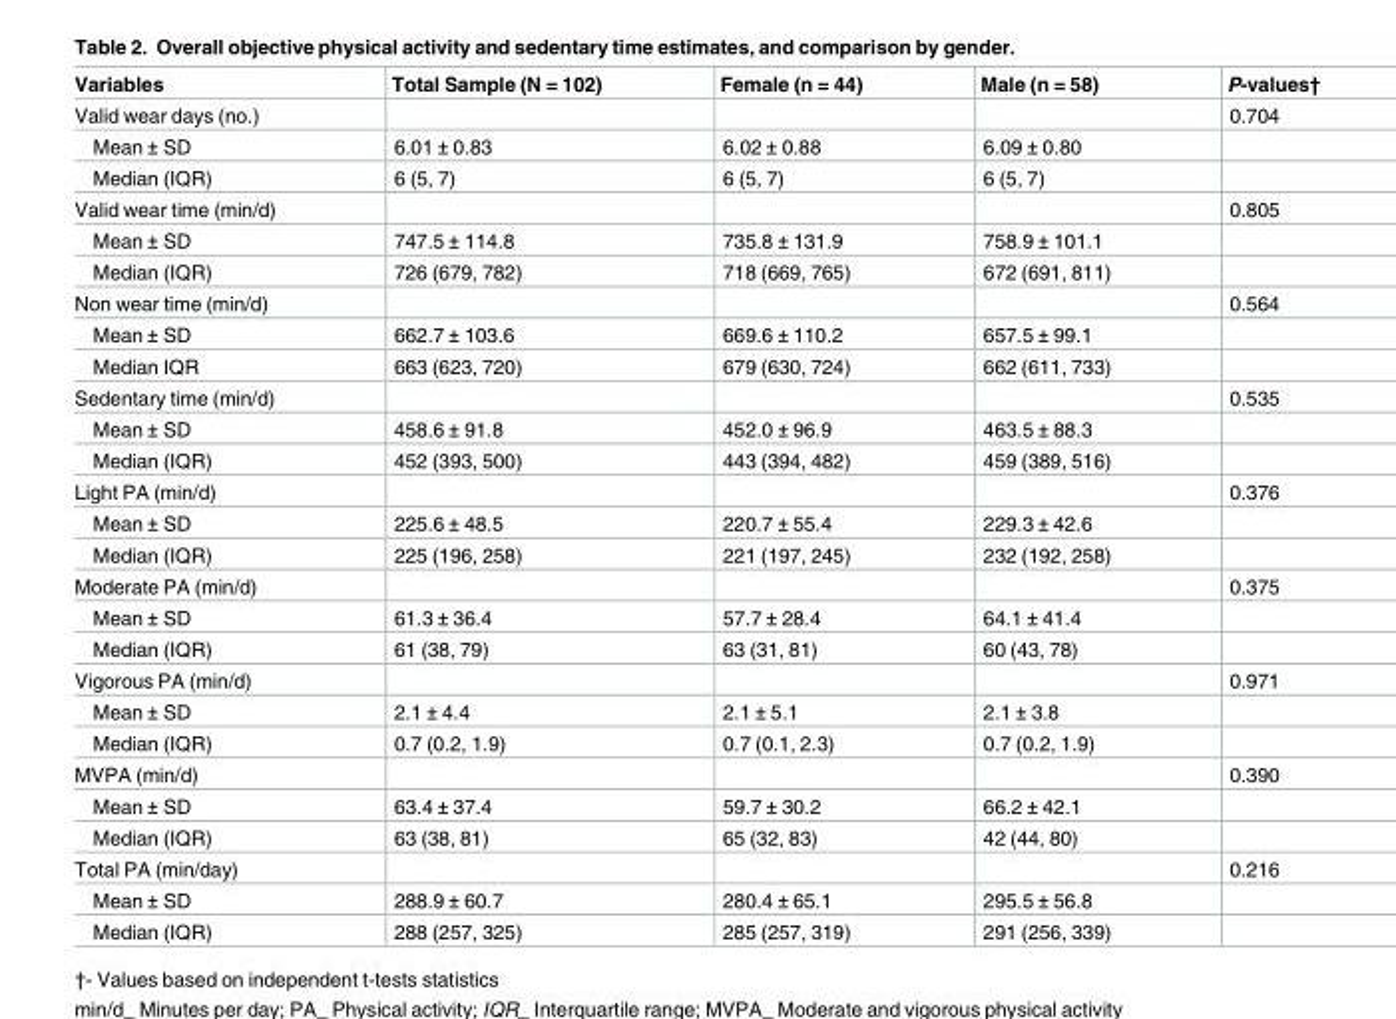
<table><thead><tr><td>Variables</td><td>Total Sample (N = 102)</td><td>Female (n = 44)</td><td>Male (n = 58)</td><td>P-values†</td></tr></thead><tbody><tr><td>Valid wear days (no.)</td><td></td><td></td><td></td><td>0.704</td></tr><tr><td>Mean ± SD</td><td>6.01 ± 0.83</td><td>6.02 ± 0.88</td><td>6.09 ± 0.80</td><td></td></tr><tr><td>Median (IQR)</td><td>6 (5, 7)</td><td>6 (5, 7)</td><td>6 (5, 7)</td><td></td></tr><tr><td>Valid wear time (min/d)</td><td></td><td></td><td></td><td>0.805</td></tr><tr><td>Mean ± SD</td><td>747.5 ± 114.8</td><td>735.8 ± 131.9</td><td>758.9 ± 101.1</td><td></td></tr><tr><td>Median (IQR)</td><td>726 (679, 782)</td><td>718 (669, 765)</td><td>672 (691, 811)</td><td></td></tr><tr><td>Non wear time (min/d)</td><td></td><td></td><td></td><td>0.564</td></tr><tr><td>Mean ± SD</td><td>662.7 ± 103.6</td><td>669.6 ± 110.2</td><td>657.5 ± 99.1</td><td></td></tr><tr><td>Median IQR</td><td>663 (623, 720)</td><td>679 (630, 724)</td><td>662 (611, 733)</td><td></td></tr><tr><td>Sedentary time (min/d)</td><td></td><td></td><td></td><td>0.535</td></tr><tr><td>Mean ± SD</td><td>458.6 ± 91.8</td><td>452.0 ± 96.9</td><td>463.5 ± 88.3</td><td></td></tr><tr><td>Median (IQR)</td><td>452 (393, 500)</td><td>443 (394, 482)</td><td>459 (389, 516)</td><td></td></tr><tr><td>Light PA (min/d)</td><td></td><td></td><td></td><td>0.376</td></tr><tr><td>Mean ± SD</td><td>225.6 ± 48.5</td><td>220.7 ± 55.4</td><td>229.3 ± 42.6</td><td></td></tr><tr><td>Median (IQR)</td><td>225 (196, 258)</td><td>221 (197, 245)</td><td>232 (192, 258)</td><td></td></tr><tr><td>Moderate PA (min/d)</td><td></td><td></td><td></td><td>0.375</td></tr><tr><td>Mean ± SD</td><td>61.3 ± 36.4</td><td>57.7 ± 28.4</td><td>64.1 ± 41.4</td><td></td></tr><tr><td>Median (IQR)</td><td>61 (38, 79)</td><td>63 (31, 81)</td><td>60 (43, 78)</td><td></td></tr><tr><td>Vigorous PA (min/d)</td><td></td><td></td><td></td><td>0.971</td></tr><tr><td>Mean ± SD</td><td>2.1 ± 4.4</td><td>2.1 ± 5.1</td><td>2.1 ± 3.8</td><td></td></tr><tr><td>Median (IQR)</td><td>0.7 (0.2, 1.9)</td><td>0.7 (0.1, 2.3)</td><td>0.7 (0.2, 1.9)</td><td></td></tr><tr><td>MVPA (min/d)</td><td></td><td></td><td></td><td>0.390</td></tr><tr><td>Mean ± SD</td><td>63.4 ± 37.4</td><td>59.7 ± 30.2</td><td>66.2 ± 42.1</td><td></td></tr><tr><td>Median (IQR)</td><td>63 (38, 81)</td><td>65 (32, 83)</td><td>42 (44, 80)</td><td></td></tr><tr><td>Total PA (min/day)</td><td></td><td></td><td></td><td>0.216</td></tr><tr><td>Mean ± SD</td><td>288.9 ± 60.7</td><td>280.4 ± 65.1</td><td>295.5 ± 56.8</td><td></td></tr><tr><td>Median (IQR)</td><td>288 (257, 325)</td><td>285 (257, 319)</td><td>291 (256, 339)</td><td></td></tr></tbody></table>